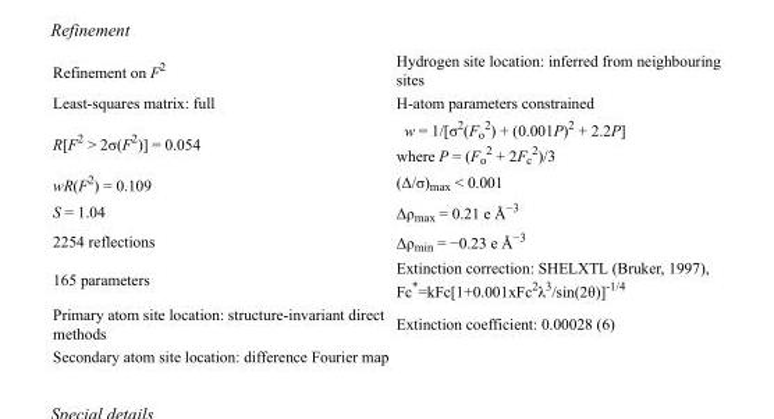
<table><tbody><tr><td>Refinement on F<sup>2</sup></td><td>Hydrogen site location: inferred from neighbouring sites</td></tr><tr><td>Least-squares matrix: full</td><td>H-atom parameters constrained</td></tr><tr><td>R[F<sup>2</sup> &gt; 2σ(F<sup>2</sup>)] = 0.054</td><td>w = 1/[σ<sup>2</sup>(F<sub>o</sub> <sup>2</sup>) + (0.001P)<sup>2</sup> + 2.2P] where P = (F<sub>o</sub> <sup>2</sup> + 2F<sub>c</sub> <sup>2</sup>)/3</td></tr><tr><td>wR(F<sup>2</sup>) = 0.109</td><td>(Δ/σ)<sub>max</sub> &lt; 0.001</td></tr><tr><td>S = 1.04</td><td>Δρ<sub>max</sub> = 0.21 e Å<sup>−3</sup></td></tr><tr><td>2254 reflections</td><td>Δρ<sub>min</sub> = −0.23 e Å<sup>−3</sup></td></tr><tr><td>165 parameters</td><td>Extinction correction: SHELXTL (Bruker, 1997), Fc*=kFc[1+0.001xFc<sup>2</sup>λ<sup>3</sup>/sin(2θ)]<sup>-1/4</sup></td></tr><tr><td>Primary atom site location: structure-invariant direct methods</td><td>Extinction coefficient: 0.00028 (6)</td></tr><tr><td>Secondary atom site location: difference Fourier map</td><td></td></tr></tbody></table>